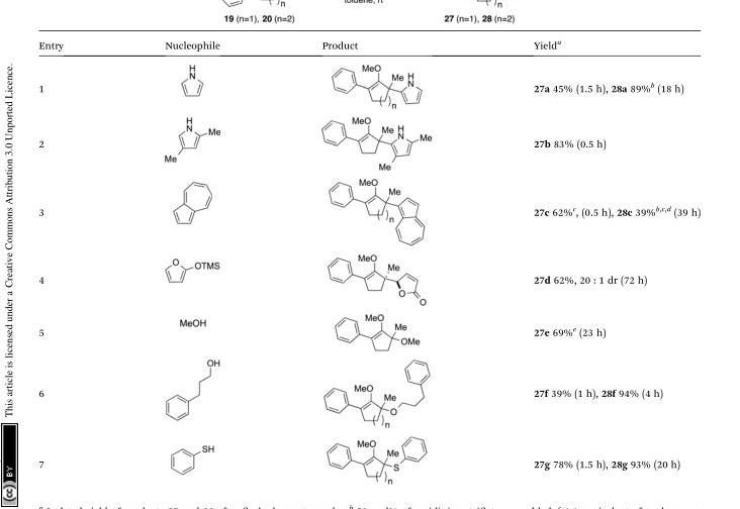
<table><thead><tr><td>Entry</td><td>Nucleophile</td><td>Product</td><td>Yield<sup>a</sup></td></tr></thead><tbody><tr><td>1</td><td></td><td></td><td>27a 45% (1.5 h), 28a 89%<sup>b</sup> (18 h)</td></tr><tr><td>2</td><td></td><td></td><td>27b 83% (0.5 h)</td></tr><tr><td>3</td><td></td><td></td><td>27c 62%<sup>c</sup>, (0.5 h), 28c 39%<sup>b,c,d</sup> (39 h)</td></tr><tr><td>4</td><td></td><td></td><td>27d 62%, 20 : 1 dr (72 h)</td></tr><tr><td>5</td><td></td><td></td><td>27e 69%<sup>e</sup> (23 h)</td></tr><tr><td>6</td><td></td><td></td><td>27f 39% (1 h), 28f 94% (4 h)</td></tr><tr><td>7</td><td></td><td></td><td>27g 78% (1.5 h), 28g 93% (20 h)</td></tr></tbody></table>